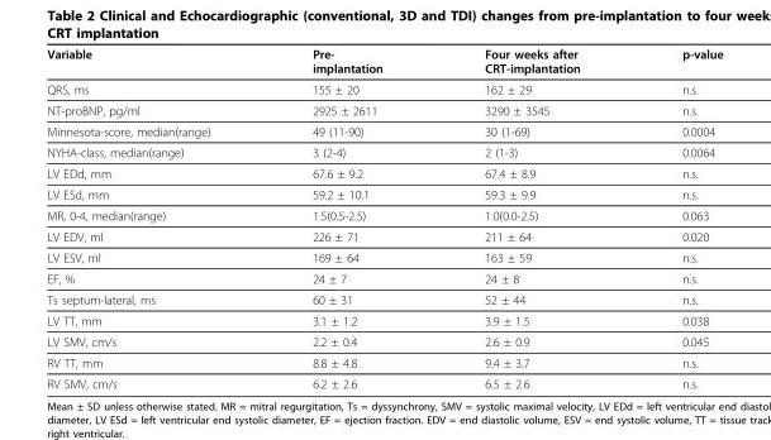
<table><thead><tr><td>Variable</td><td>Pre- implantation</td><td>Four weeks after CRT-implantation</td><td>p-value</td></tr></thead><tbody><tr><td>QRS, ms</td><td>155 ± 20</td><td>162 ± 29</td><td>n.s.</td></tr><tr><td>NT-proBNP, pg/ml</td><td>2925 ± 2611</td><td>3290 ± 3545</td><td>n.s.</td></tr><tr><td>Minnesota-score, median(range)</td><td>49 (11-90)</td><td>30 (1-69)</td><td>0.0004</td></tr><tr><td>NYHA-class, median(range)</td><td>3 (2-4)</td><td>2 (1-3)</td><td>0.0064</td></tr><tr><td>LV EDd, mm</td><td>67.6 ± 9.2</td><td>67.4 ± 8.9</td><td>n.s.</td></tr><tr><td>LV ESd, mm</td><td>59.2 ± 10.1</td><td>59.3 ± 9.9</td><td>n.s.</td></tr><tr><td>MR, 0-4, median(range)</td><td>1.5(0.5-2.5)</td><td>1.0(0.0-2.5)</td><td>0.063</td></tr><tr><td>LV EDV, ml</td><td>226 ± 71</td><td>211 ± 64</td><td>0.020</td></tr><tr><td>LV ESV, ml</td><td>169 ± 64</td><td>163 ± 59</td><td>n.s.</td></tr><tr><td>EF, %</td><td>24 ± 7</td><td>24 ± 8</td><td>n.s.</td></tr><tr><td>Ts septum-lateral, ms</td><td>60 ± 31</td><td>52 ± 44</td><td>n.s.</td></tr><tr><td>LV TT, mm</td><td>3.1 ± 1.2</td><td>3.9 ± 1.5</td><td>0.038</td></tr><tr><td>LV SMV, cm/s</td><td>2.2 ± 0.4</td><td>2.6 ± 0.9</td><td>0.045</td></tr><tr><td>RV TT, mm</td><td>8.8 ± 4.8</td><td>9.4 ± 3.7</td><td>n.s.</td></tr><tr><td>RV SMV, cm/s</td><td>6.2 ± 2.6</td><td>6.5 ± 2.6</td><td>n.s.</td></tr></tbody></table>